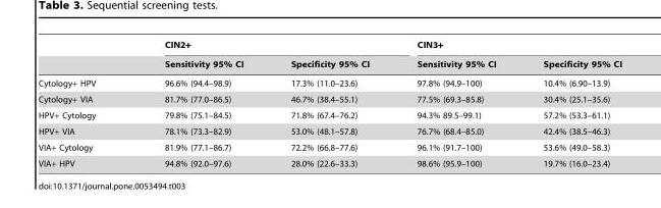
<table><thead><tr><td rowspan="2"></td><td colspan="2">CIN2+</td><td colspan="2">CIN3+</td></tr><tr><td>Sensitivity 95% CI</td><td>Specificity 95% CI</td><td>Sensitivity 95% CI</td><td>Specificity 95% CI</td></tr></thead><tbody><tr><td>Cytology+ HPV</td><td>96.6% (94.4–98.9)</td><td>17.3% (11.0–23.6)</td><td>97.8% (94.9–100)</td><td>10.4% (6.90–13.9)</td></tr><tr><td>Cytology+ VIA</td><td>81.7% (77.0–86.5)</td><td>46.7% (38.4–55.1)</td><td>77.5% (69.3–85.8)</td><td>30.4% (25.1–35.6)</td></tr><tr><td>HPV+ Cytology</td><td>79.8% (75.1–84.5)</td><td>71.8% (67.4–76.2)</td><td>94.3% 89.5–99.1)</td><td>57.2% (53.3–61.1)</td></tr><tr><td>HPV+ VIA</td><td>78.1% (73.3–82.9)</td><td>53.0% (48.1–57.8)</td><td>76.7% (68.4–85.0)</td><td>42.4% (38.5–46.3)</td></tr><tr><td>VIA+ Cytology</td><td>81.9% (77.1–86.7)</td><td>72.2% (66.8–77.6)</td><td>96.1% (91.7–100)</td><td>53.6% (49.0–58.3)</td></tr><tr><td>VIA+ HPV</td><td>94.8% (92.0–97.6)</td><td>28.0% (22.6–33.3)</td><td>98.6% (95.9–100)</td><td>19.7% (16.0–23.4)</td></tr></tbody></table>